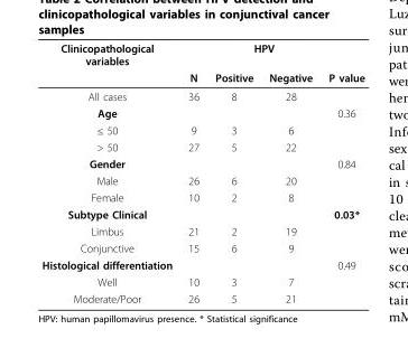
<table><thead><tr><td rowspan="2">Clinicopathological variables</td><td rowspan="2">N</td><td colspan="2">HPV</td><td rowspan="2">P value</td></tr><tr><td>Positive</td><td>Negative</td></tr></thead><tbody><tr><td>All cases</td><td>36</td><td>8</td><td>28</td><td></td></tr><tr><td>Age</td><td></td><td></td><td></td><td>0.36</td></tr><tr><td>≤ 50</td><td>9</td><td>3</td><td>6</td><td></td></tr><tr><td>&gt; 50</td><td>27</td><td>5</td><td>22</td><td></td></tr><tr><td>Gender</td><td></td><td></td><td></td><td>0.84</td></tr><tr><td>Male</td><td>26</td><td>6</td><td>20</td><td></td></tr><tr><td>Female</td><td>10</td><td>2</td><td>8</td><td></td></tr><tr><td>Subtype Clinical</td><td></td><td></td><td></td><td>0.03*</td></tr><tr><td>Limbus</td><td>21</td><td>2</td><td>19</td><td></td></tr><tr><td>Conjunctive</td><td>15</td><td>6</td><td>9</td><td></td></tr><tr><td>Histological differentiation</td><td></td><td></td><td></td><td>0.49</td></tr><tr><td>Well</td><td>10</td><td>3</td><td>7</td><td></td></tr><tr><td>Moderate/Poor</td><td>26</td><td>5</td><td>21</td><td></td></tr></tbody></table>